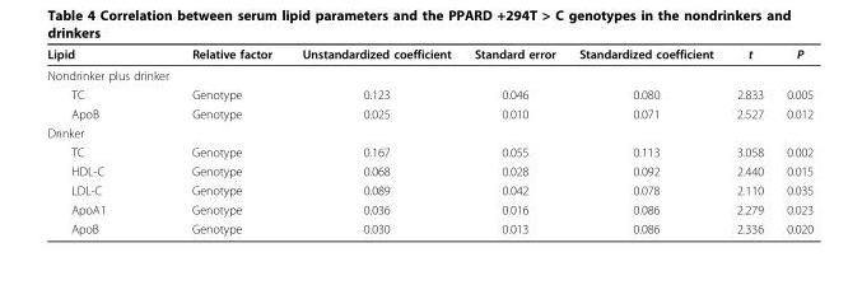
<table><thead><tr><td>Lipid</td><td>Relative factor</td><td>Unstandardized coefficient</td><td>Standard error</td><td>Standardized coefficient</td><td>t</td><td>P</td></tr></thead><tbody><tr><td colspan="7">Nondrinker plus drinker</td></tr><tr><td>TC</td><td>Genotype</td><td>0.123</td><td>0.046</td><td>0.080</td><td>2.833</td><td>0.005</td></tr><tr><td>ApoB</td><td>Genotype</td><td>0.025</td><td>0.010</td><td>0.071</td><td>2.527</td><td>0.012</td></tr><tr><td colspan="7">Drinker</td></tr><tr><td>TC</td><td>Genotype</td><td>0.167</td><td>0.055</td><td>0.113</td><td>3.058</td><td>0.002</td></tr><tr><td>HDL-C</td><td>Genotype</td><td>0.068</td><td>0.028</td><td>0.092</td><td>2.440</td><td>0.015</td></tr><tr><td>LDL-C</td><td>Genotype</td><td>0.089</td><td>0.042</td><td>0.078</td><td>2.110</td><td>0.035</td></tr><tr><td>ApoA1</td><td>Genotype</td><td>0.036</td><td>0.016</td><td>0.086</td><td>2.279</td><td>0.023</td></tr><tr><td>ApoB</td><td>Genotype</td><td>0.030</td><td>0.013</td><td>0.086</td><td>2.336</td><td>0.020</td></tr></tbody></table>